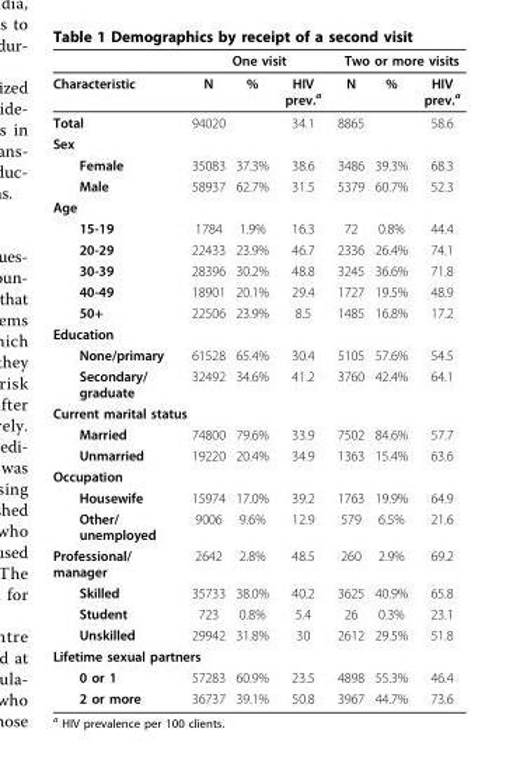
<table><thead><tr><td rowspan="2">Characteristic</td><td colspan="3">One visit</td><td colspan="3">Two or more visits</td></tr><tr><td>N</td><td>%</td><td>HIV prev.<sup>a</sup></td><td>N</td><td>%</td><td>HIV prev.<sup>a</sup></td></tr></thead><tbody><tr><td>Total</td><td>94020</td><td></td><td>34.1</td><td>8865</td><td></td><td>58.6</td></tr><tr><td colspan="7">Sex</td></tr><tr><td>Female</td><td>35083</td><td>37.3%</td><td>38.6</td><td>3486</td><td>39.3%</td><td>68.3</td></tr><tr><td>Male</td><td>58937</td><td>62.7%</td><td>31.5</td><td>5379</td><td>60.7%</td><td>52.3</td></tr><tr><td colspan="7">Age</td></tr><tr><td>15-19</td><td>1784</td><td>1.9%</td><td>16.3</td><td>72</td><td>0.8%</td><td>44.4</td></tr><tr><td>20-29</td><td>22433</td><td>23.9%</td><td>46.7</td><td>2336</td><td>26.4%</td><td>74.1</td></tr><tr><td>30-39</td><td>28396</td><td>30.2%</td><td>48.8</td><td>3245</td><td>36.6%</td><td>71.8</td></tr><tr><td>40-49</td><td>18901</td><td>20.1%</td><td>29.4</td><td>1727</td><td>19.5%</td><td>48.9</td></tr><tr><td>50+</td><td>22506</td><td>23.9%</td><td>8.5</td><td>1485</td><td>16.8%</td><td>17.2</td></tr><tr><td colspan="7">Education</td></tr><tr><td>None/primary</td><td>61528</td><td>65.4%</td><td>30.4</td><td>5105</td><td>57.6%</td><td>54.5</td></tr><tr><td>Secondary/ graduate</td><td>32492</td><td>34.6%</td><td>41.2</td><td>3760</td><td>42.4%</td><td>64.1</td></tr><tr><td colspan="7">Current marital status</td></tr><tr><td>Married</td><td>74800</td><td>79.6%</td><td>33.9</td><td>7502</td><td>84.6%</td><td>57.7</td></tr><tr><td>Unmarried</td><td>19220</td><td>20.4%</td><td>34.9</td><td>1363</td><td>15.4%</td><td>63.6</td></tr><tr><td colspan="7">Occupation</td></tr><tr><td>Housewife</td><td>15974</td><td>17.0%</td><td>39.2</td><td>1763</td><td>19.9%</td><td>64.9</td></tr><tr><td>Other/ unemployed</td><td>9006</td><td>9.6%</td><td>12.9</td><td>579</td><td>6.5%</td><td>21.6</td></tr><tr><td>Professional/ manager</td><td>2642</td><td>2.8%</td><td>48.5</td><td>260</td><td>2.9%</td><td>69.2</td></tr><tr><td>Skilled</td><td>35733</td><td>38.0%</td><td>40.2</td><td>3625</td><td>40.9%</td><td>65.8</td></tr><tr><td>Student</td><td>723</td><td>0.8%</td><td>5.4</td><td>26</td><td>0.3%</td><td>23.1</td></tr><tr><td>Unskilled</td><td>29942</td><td>31.8%</td><td>30</td><td>2612</td><td>29.5%</td><td>51.8</td></tr><tr><td colspan="7">Lifetime sexual partners</td></tr><tr><td>0 or 1</td><td>57283</td><td>60.9%</td><td>23.5</td><td>4898</td><td>55.3%</td><td>46.4</td></tr><tr><td>2 or more</td><td>36737</td><td>39.1%</td><td>50.8</td><td>3967</td><td>44.7%</td><td>73.6</td></tr></tbody></table>